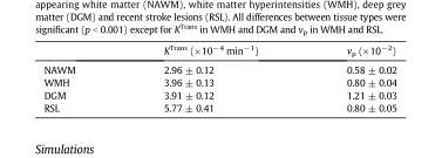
<table><thead><tr><td></td><td>K<sup>Trans</sup> (×10<sup>−4</sup> min<sup>−1</sup>)</td><td>v<sub>p</sub> (×10<sup>−2</sup>)</td></tr></thead><tbody><tr><td>NAWM</td><td>2.96 ± 0.12</td><td>0.58 ± 0.02</td></tr><tr><td>WMH</td><td>3.96 ± 0.13</td><td>0.80 ± 0.04</td></tr><tr><td>DGM</td><td>3.91 ± 0.12</td><td>1.21 ± 0.03</td></tr><tr><td>RSL</td><td>5.77 ± 0.41</td><td>0.80 ± 0.05</td></tr></tbody></table>